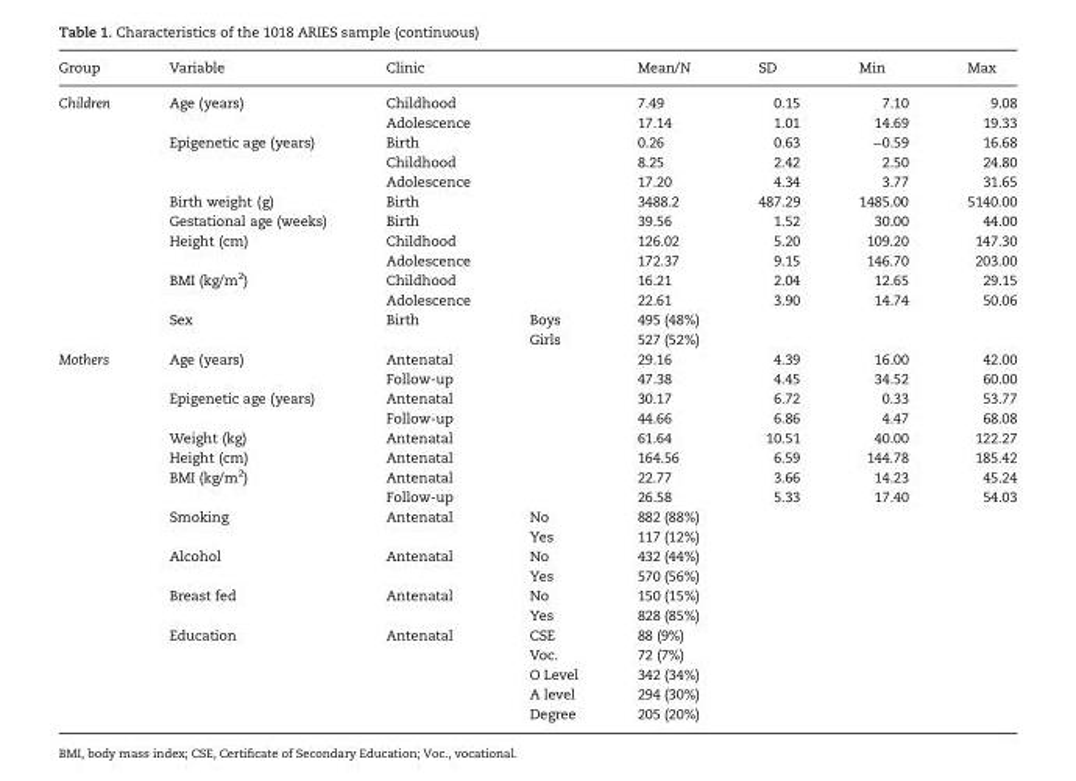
<table><thead><tr><td>Group</td><td>Variable</td><td>Clinic</td><td></td><td>Mean/N</td><td>SD</td><td>Min</td><td>Max</td></tr></thead><tbody><tr><td rowspan="13">Children</td><td>Age (years)</td><td>Childhood</td><td></td><td>7.49</td><td>0.15</td><td>7.10</td><td>9.08</td></tr><tr><td></td><td>Adolescence</td><td></td><td>17.14</td><td>1.01</td><td>14.69</td><td>19.33</td></tr><tr><td>Epigenetic age (years)</td><td>Birth</td><td></td><td>0.26</td><td>0.63</td><td>−0.59</td><td>16.68</td></tr><tr><td></td><td>Childhood</td><td></td><td>8.25</td><td>2.42</td><td>2.50</td><td>24.80</td></tr><tr><td></td><td>Adolescence</td><td></td><td>17.20</td><td>4.34</td><td>3.77</td><td>31.65</td></tr><tr><td>Birth weight (g)</td><td>Birth</td><td></td><td>3488.2</td><td>487.29</td><td>1485.00</td><td>5140.00</td></tr><tr><td>Gestational age (weeks)</td><td>Birth</td><td></td><td>39.56</td><td>1.52</td><td>30.00</td><td>44.00</td></tr><tr><td>Height (cm)</td><td>Childhood</td><td></td><td>126.02</td><td>5.20</td><td>109.20</td><td>147.30</td></tr><tr><td></td><td>Adolescence</td><td></td><td>172.37</td><td>9.15</td><td>146.70</td><td>203.00</td></tr><tr><td>BMI (kg/m<sup>2</sup>)</td><td>Childhood</td><td></td><td>16.21</td><td>2.04</td><td>12.65</td><td>29.15</td></tr><tr><td></td><td>Adolescence</td><td></td><td>22.61</td><td>3.90</td><td>14.74</td><td>50.06</td></tr><tr><td>Sex</td><td>Birth</td><td>Boys</td><td>495 (48%)</td><td></td><td></td><td></td></tr><tr><td></td><td></td><td>Girls</td><td>527 (52%)</td><td></td><td></td><td></td></tr><tr><td rowspan="19">Mothers</td><td>Age (years)</td><td>Antenatal</td><td></td><td>29.16</td><td>4.39</td><td>16.00</td><td>42.00</td></tr><tr><td></td><td>Follow-up</td><td></td><td>47.38</td><td>4.45</td><td>34.52</td><td>60.00</td></tr><tr><td>Epigenetic age (years)</td><td>Antenatal</td><td></td><td>30.17</td><td>6.72</td><td>0.33</td><td>53.77</td></tr><tr><td></td><td>Follow-up</td><td></td><td>44.66</td><td>6.86</td><td>4.47</td><td>68.08</td></tr><tr><td>Weight (kg)</td><td>Antenatal</td><td></td><td>61.64</td><td>10.51</td><td>40.00</td><td>122.27</td></tr><tr><td>Height (cm)</td><td>Antenatal</td><td></td><td>164.56</td><td>6.59</td><td>144.78</td><td>185.42</td></tr><tr><td>BMI (kg/m<sup>2</sup>)</td><td>Antenatal</td><td></td><td>22.77</td><td>3.66</td><td>14.23</td><td>45.24</td></tr><tr><td></td><td>Follow-up</td><td></td><td>26.58</td><td>5.33</td><td>17.40</td><td>54.03</td></tr><tr><td>Smoking</td><td>Antenatal</td><td>No</td><td>882 (88%)</td><td></td><td></td><td></td></tr><tr><td></td><td></td><td>Yes</td><td>117 (12%)</td><td></td><td></td><td></td></tr><tr><td>Alcohol</td><td>Antenatal</td><td>No</td><td>432 (44%)</td><td></td><td></td><td></td></tr><tr><td></td><td></td><td>Yes</td><td>570 (56%)</td><td></td><td></td><td></td></tr><tr><td>Breast fed</td><td>Antenatal</td><td>No</td><td>150 (15%)</td><td></td><td></td><td></td></tr><tr><td></td><td></td><td>Yes</td><td>828 (85%)</td><td></td><td></td><td></td></tr><tr><td>Education</td><td>Antenatal</td><td>CSE</td><td>88 (9%)</td><td></td><td></td><td></td></tr><tr><td></td><td></td><td>Voc.</td><td>72 (7%)</td><td></td><td></td><td></td></tr><tr><td></td><td></td><td>O Level</td><td>342 (34%)</td><td></td><td></td><td></td></tr><tr><td></td><td></td><td>A level</td><td>294 (30%)</td><td></td><td></td><td></td></tr><tr><td></td><td></td><td>Degree</td><td>205 (20%)</td><td></td><td></td><td></td></tr></tbody></table>